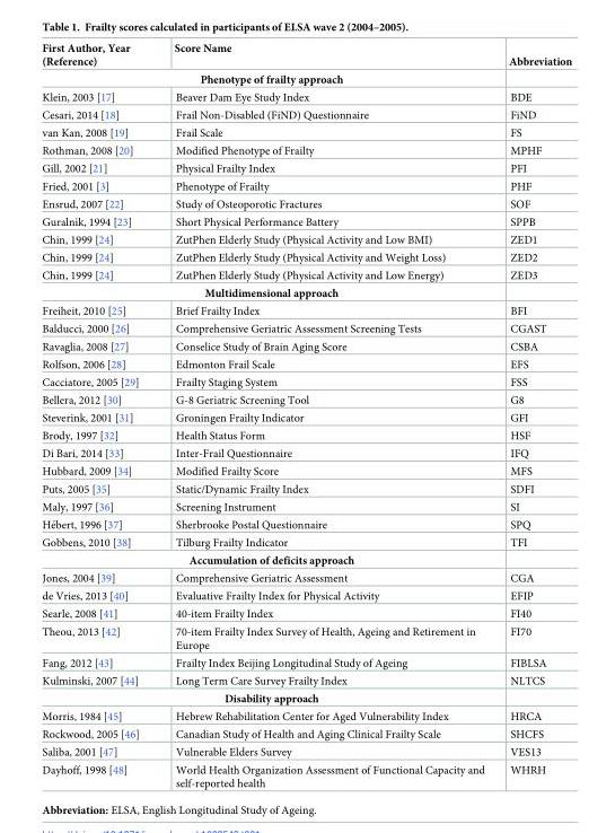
<table><thead><tr><td>First Author, Year (Reference)</td><td>Score Name</td><td>Abbreviation</td></tr></thead><tbody><tr><td colspan="3">Phenotype of frailty approach</td></tr><tr><td>Klein, 2003 [17]</td><td>Beaver Dam Eye Study Index</td><td>BDE</td></tr><tr><td>Cesari, 2014 [18]</td><td>Frail Non-Disabled (FiND) Questionnaire</td><td>FiND</td></tr><tr><td>van Kan, 2008 [19]</td><td>Frail Scale</td><td>FS</td></tr><tr><td>Rothman, 2008 [20]</td><td>Modified Phenotype of Frailty</td><td>MPHF</td></tr><tr><td>Gill, 2002 [21]</td><td>Physical Frailty Index</td><td>PFI</td></tr><tr><td>Fried, 2001 [3]</td><td>Phenotype of Frailty</td><td>PHF</td></tr><tr><td>Ensrud, 2007 [22]</td><td>Study of Osteoporotic Fractures</td><td>SOF</td></tr><tr><td>Guralnik, 1994 [23]</td><td>Short Physical Performance Battery</td><td>SPPB</td></tr><tr><td>Chin, 1999 [24]</td><td>ZutPhen Elderly Study (Physical Activity and Low BMI)</td><td>ZED1</td></tr><tr><td>Chin, 1999 [24]</td><td>ZutPhen Elderly Study (Physical Activity and Weight Loss)</td><td>ZED2</td></tr><tr><td>Chin, 1999 [24]</td><td>ZutPhen Elderly Study (Physical Activity and Low Energy)</td><td>ZED3</td></tr><tr><td colspan="3">Multidimensional approach</td></tr><tr><td>Freiheit, 2010 [25]</td><td>Brief Frailty Index</td><td>BFI</td></tr><tr><td>Balducci, 2000 [26]</td><td>Comprehensive Geriatric Assessment Screening Tests</td><td>CGAST</td></tr><tr><td>Ravaglia, 2008 [27]</td><td>Conselice Study of Brain Aging Score</td><td>CSBA</td></tr><tr><td>Rolfson, 2006 [28]</td><td>Edmonton Frail Scale</td><td>EFS</td></tr><tr><td>Cacciatore, 2005 [29]</td><td>Frailty Staging System</td><td>FSS</td></tr><tr><td>Bellera, 2012 [30]</td><td>G-8 Geriatric Screening Tool</td><td>G8</td></tr><tr><td>Steverink, 2001 [31]</td><td>Groningen Frailty Indicator</td><td>GFI</td></tr><tr><td>Brody, 1997 [32]</td><td>Health Status Form</td><td>HSF</td></tr><tr><td>Di Bari, 2014 [33]</td><td>Inter-Frail Questionnaire</td><td>IFQ</td></tr><tr><td>Hubbard, 2009 [34]</td><td>Modified Frailty Score</td><td>MFS</td></tr><tr><td>Puts, 2005 [35]</td><td>Static/Dynamic Frailty Index</td><td>SDFI</td></tr><tr><td>Maly, 1997 [36]</td><td>Screening Instrument</td><td>SI</td></tr><tr><td>He´bert, 1996 [37]</td><td>Sherbrooke Postal Questionnaire</td><td>SPQ</td></tr><tr><td>Gobbens, 2010 [38]</td><td>Tilburg Frailty Indicator</td><td>TFI</td></tr><tr><td colspan="3">Accumulation of deficits approach</td></tr><tr><td>Jones, 2004 [39]</td><td>Comprehensive Geriatric Assessment</td><td>CGA</td></tr><tr><td>de Vries, 2013 [40]</td><td>Evaluative Frailty Index for Physical Activity</td><td>EFIP</td></tr><tr><td>Searle, 2008 [41]</td><td>40-item Frailty Index</td><td>FI40</td></tr><tr><td>Theou, 2013 [42]</td><td>70-item Frailty Index Survey of Health, Ageing and Retirement in Europe</td><td>FI70</td></tr><tr><td>Fang, 2012 [43]</td><td>Frailty Index Beijing Longitudinal Study of Ageing</td><td>FIBLSA</td></tr><tr><td>Kulminski, 2007 [44]</td><td>Long Term Care Survey Frailty Index</td><td>NLTCS</td></tr><tr><td colspan="3">Disability approach</td></tr><tr><td>Morris, 1984 [45]</td><td>Hebrew Rehabilitation Center for Aged Vulnerability Index</td><td>HRCA</td></tr><tr><td>Rockwood, 2005 [46]</td><td>Canadian Study of Health and Aging Clinical Frailty Scale</td><td>SHCFS</td></tr><tr><td>Saliba, 2001 [47]</td><td>Vulnerable Elders Survey</td><td>VES13</td></tr><tr><td>Dayhoff, 1998 [48]</td><td>World Health Organization Assessment of Functional Capacity and self-reported health</td><td>WHRH</td></tr></tbody></table>